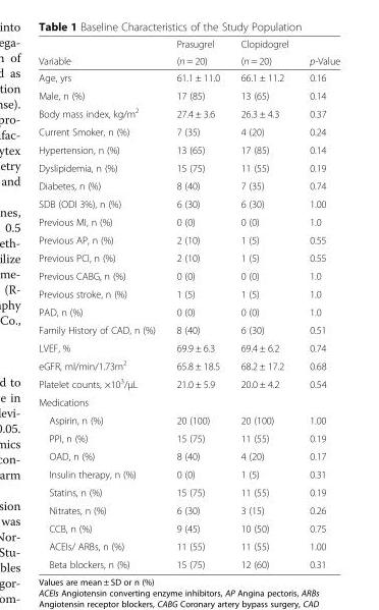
<table><thead><tr><td rowspan="2">Variable</td><td rowspan="2">Prasugrel (n = 20)</td><td rowspan="2">Clopidogrel (n = 20)</td><td rowspan="2">p-Value</td></tr><tr></tr></thead><tbody><tr><td>Age, yrs</td><td>61.1 ± 11.0</td><td>66.1 ± 11.2</td><td>0.16</td></tr><tr><td>Male, n (%)</td><td>17 (85)</td><td>13 (65)</td><td>0.14</td></tr><tr><td>Body mass index, kg/m<sup>2</sup></td><td>27.4 ± 3.6</td><td>26.3 ± 4.3</td><td>0.37</td></tr><tr><td>Current Smoker, n (%)</td><td>7 (35)</td><td>4 (20)</td><td>0.24</td></tr><tr><td>Hypertension, n (%)</td><td>13 (65)</td><td>17 (85)</td><td>0.14</td></tr><tr><td>Dyslipidemia, n (%)</td><td>15 (75)</td><td>11 (55)</td><td>0.19</td></tr><tr><td>Diabetes, n (%)</td><td>8 (40)</td><td>7 (35)</td><td>0.74</td></tr><tr><td>SDB (ODI 3%), n (%)</td><td>6 (30)</td><td>6 (30)</td><td>1.00</td></tr><tr><td>Previous MI, n (%)</td><td>0 (0)</td><td>0 (0)</td><td>1.0</td></tr><tr><td>Previous AP, n (%)</td><td>2 (10)</td><td>1 (5)</td><td>0.55</td></tr><tr><td>Previous PCI, n (%)</td><td>2 (10)</td><td>1 (5)</td><td>0.55</td></tr><tr><td>Previous CABG, n (%)</td><td>0 (0)</td><td>0 (0)</td><td>1.0</td></tr><tr><td>Previous stroke, n (%)</td><td>1 (5)</td><td>1 (5)</td><td>1.0</td></tr><tr><td>PAD, n (%)</td><td>0 (0)</td><td>0 (0)</td><td>1.0</td></tr><tr><td>Family History of CAD, n (%)</td><td>8 (40)</td><td>6 (30)</td><td>0.51</td></tr><tr><td>LVEF, %</td><td>69.9 ± 6.3</td><td>69.4 ± 6.2</td><td>0.74</td></tr><tr><td>eGFR, ml/min/1.73m<sup>2</sup></td><td>65.8 ± 18.5</td><td>68.2 ± 17.2</td><td>0.68</td></tr><tr><td>Platelet counts, ×10<sup>3</sup>/μL</td><td>21.0 ± 5.9</td><td>20.0 ± 4.2</td><td>0.54</td></tr><tr><td colspan="4">Medications</td></tr><tr><td>Aspirin, n (%)</td><td>20 (100)</td><td>20 (100)</td><td>1.00</td></tr><tr><td>PPI, n (%)</td><td>15 (75)</td><td>11 (55)</td><td>0.19</td></tr><tr><td>OAD, n (%)</td><td>8 (40)</td><td>4 (20)</td><td>0.17</td></tr><tr><td>Insulin therapy, n (%)</td><td>0 (0)</td><td>1 (5)</td><td>0.31</td></tr><tr><td>Statins, n (%)</td><td>15 (75)</td><td>11 (55)</td><td>0.19</td></tr><tr><td>Nitrates, n (%)</td><td>6 (30)</td><td>3 (15)</td><td>0.26</td></tr><tr><td>CCB, n (%)</td><td>9 (45)</td><td>10 (50)</td><td>0.75</td></tr><tr><td>ACEIs/ ARBs, n (%)</td><td>11 (55)</td><td>11 (55)</td><td>1.00</td></tr><tr><td>Beta blockers, n (%)</td><td>15 (75)</td><td>12 (60)</td><td>0.31</td></tr></tbody></table>